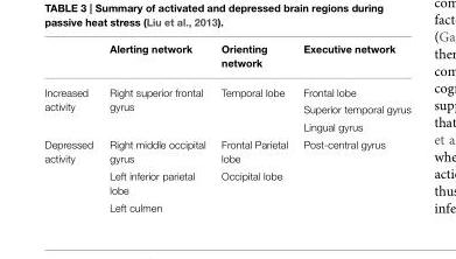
<table><thead><tr><td></td><td>Alerting network</td><td>Orienting network</td><td>Executive network</td></tr></thead><tbody><tr><td>Increased activity</td><td>Right superior frontal gyrus</td><td>Temporal lobe</td><td>Frontal lobe Superior temporal gyrus Lingual gyrus</td></tr><tr><td rowspan="3">Depressed activity</td><td>Right middle occipital gyrus</td><td>Frontal Parietal lobe</td><td>Post-central gyrus</td></tr><tr><td>Left inferior parietal lobe</td><td>Occipital lobe</td><td></td></tr><tr><td>Left culmen</td><td></td><td></td></tr></tbody></table>